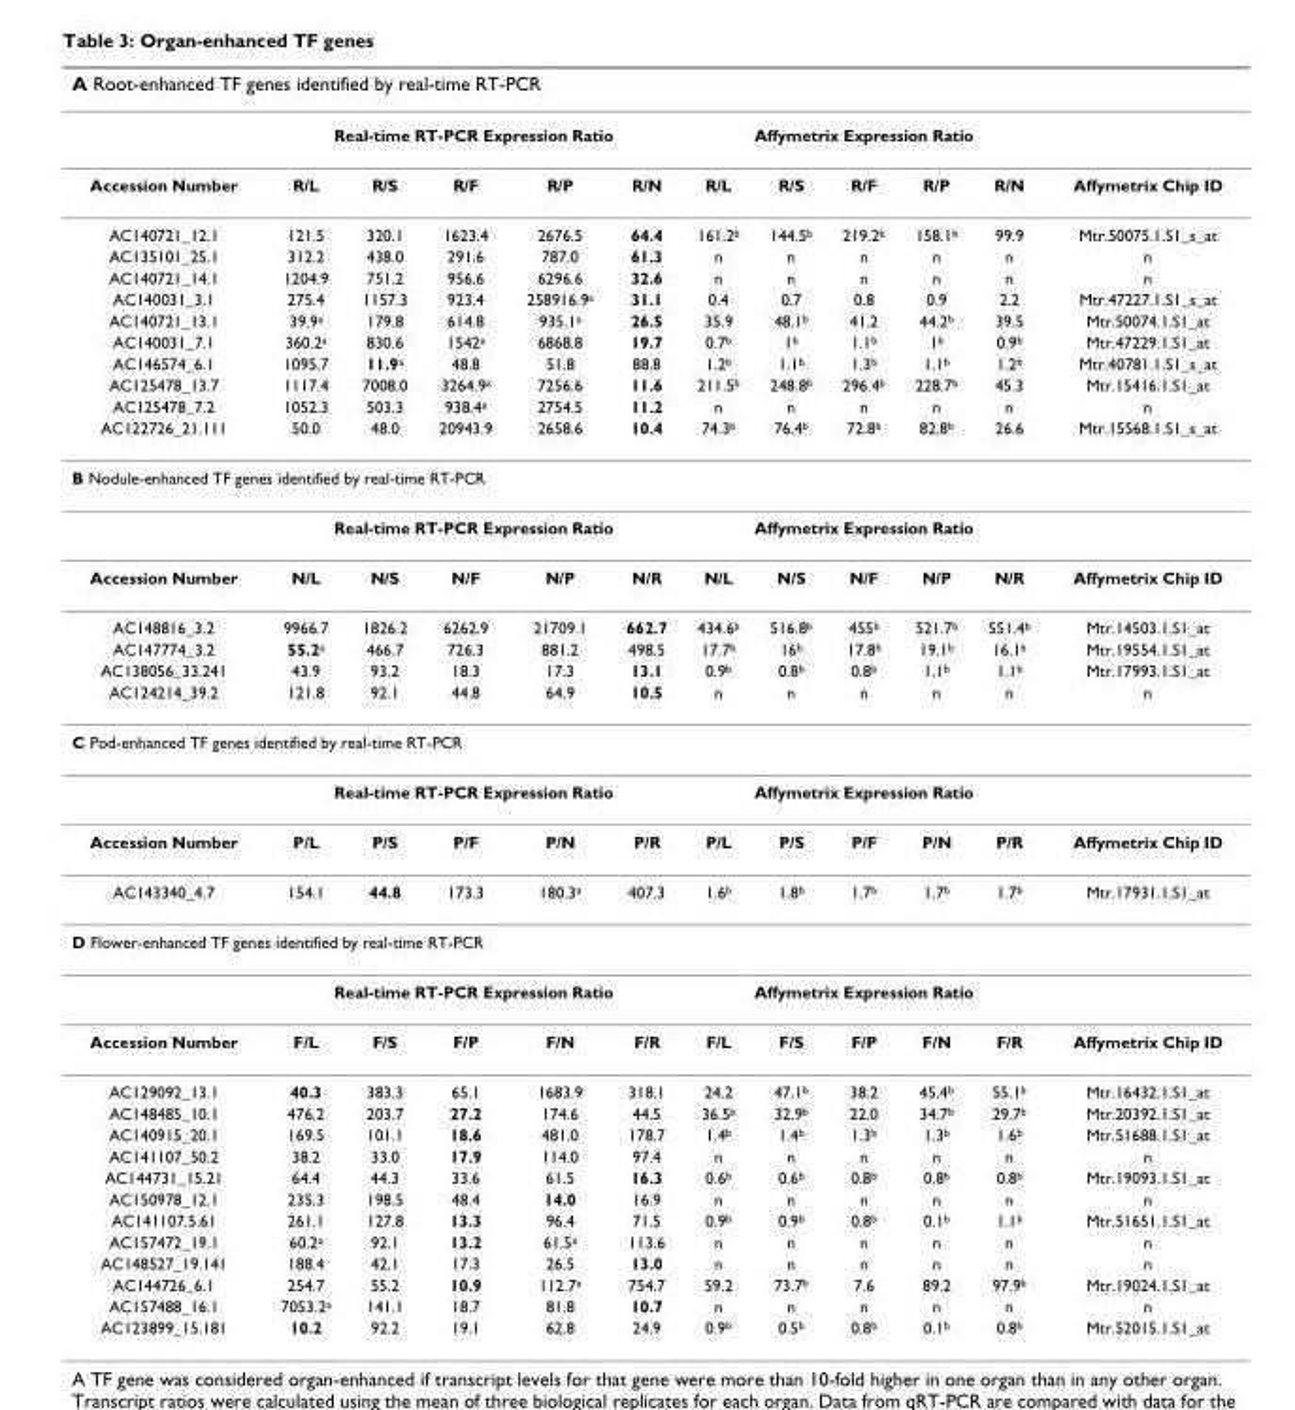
<table><thead><tr><td colspan="12">A Root-enhanced TF genes identified by real-time RT-PCR</td></tr><tr><td rowspan="2">Accession Number</td><td colspan="5">Real-time RT-PCR Expression Ratio</td><td colspan="5">Affymetrix Expression Ratio</td><td rowspan="2">Affymetrix Chip ID</td></tr><tr><td>R/L</td><td>R/S</td><td>R/F</td><td>R/P</td><td>R/N</td><td>R/L</td><td>R/S</td><td>R/F</td><td>R/P</td><td>R/N</td></tr></thead><tbody><tr><td>AC140721_12.1</td><td>121.5</td><td>320.1</td><td>1623.4</td><td>2676.5</td><td>64.4</td><td>161.2<sup>b</sup></td><td>144.5<sup>b</sup></td><td>219.2<sup>b</sup></td><td>158.1<sup>b</sup></td><td>99.9</td><td>Mtr.50075.1.S1_s_at</td></tr><tr><td>AC135101_25.1</td><td>312.2</td><td>438.0</td><td>291.6</td><td>787.0</td><td>61.3</td><td>n</td><td>n</td><td>n</td><td>n</td><td>n</td><td>n</td></tr><tr><td>AC140721_14.1</td><td>1204.9</td><td>751.2</td><td>956.6</td><td>6296.6</td><td>32.6</td><td>n</td><td>n</td><td>n</td><td>n</td><td>n</td><td>n</td></tr><tr><td>AC140031_3.1</td><td>275.4</td><td>1157.3</td><td>923.4</td><td>258916.9<sup>a</sup></td><td>31.1</td><td>0.4</td><td>0.7</td><td>0.8</td><td>0.9</td><td>2.2</td><td>Mtr.47227.1.S1_s_at</td></tr><tr><td>AC140721_13.1</td><td>39.9<sup>a</sup></td><td>179.8</td><td>614.8</td><td>935.1<sup>a</sup></td><td>26.5</td><td>35.9</td><td>48.1<sup>b</sup></td><td>41.2</td><td>44.2<sup>b</sup></td><td>39.5</td><td>Mtr.50074.1.S1_at</td></tr><tr><td>AC140031_7.1</td><td>360.2<sup>a</sup></td><td>830.6</td><td>1542<sup>a</sup></td><td>6868.8</td><td>19.7</td><td>0.7<sup>b</sup></td><td>1<sup>b</sup></td><td>1.1<sup>b</sup></td><td>1<sup>b</sup></td><td>0.9<sup>b</sup></td><td>Mtr.47229.1.S1_at</td></tr><tr><td>AC146574_6.1</td><td>1095.7</td><td>11.9<sup>a</sup></td><td>48.8</td><td>51.8</td><td>88.8</td><td>1.2<sup>b</sup></td><td>1.1<sup>b</sup></td><td>1.3<sup>b</sup></td><td>1.1<sup>b</sup></td><td>1.2<sup>b</sup></td><td>Mtr.40781.1.S1_s_at</td></tr><tr><td>AC125478_13.7</td><td>1117.4</td><td>7008.0</td><td>3264.9<sup>a</sup></td><td>7256.6</td><td>11.6</td><td>211.5<sup>b</sup></td><td>248.8<sup>b</sup></td><td>296.4<sup>b</sup></td><td>228.7<sup>b</sup></td><td>45.3</td><td>Mtr.15416.1.S1_at</td></tr><tr><td>AC125478_7.2</td><td>1052.3</td><td>503.3</td><td>938.4<sup>a</sup></td><td>2754.5</td><td>11.2</td><td>n</td><td>n</td><td>n</td><td>n</td><td>n</td><td>n</td></tr><tr><td>AC122726_21.111</td><td>50.0</td><td>48.0</td><td>20943.9</td><td>2658.6</td><td>10.4</td><td>74.3<sup>b</sup></td><td>76.4<sup>b</sup></td><td>72.8<sup>b</sup></td><td>82.8<sup>b</sup></td><td>26.6</td><td>Mtr.15568.1.S1_s_at</td></tr><tr><td colspan="12">B Nodule-enhanced TF genes identified by real-time RT-PCR</td></tr><tr><td></td><td colspan="5">Real-time RT-PCR Expression Ratio</td><td colspan="5">Affymetrix Expression Ratio</td><td></td></tr><tr><td>Accession Number</td><td>N/L</td><td>N/S</td><td>N/F</td><td>N/P</td><td>N/R</td><td>N/L</td><td>N/S</td><td>N/F</td><td>N/P</td><td>N/R</td><td>Affymetrix Chip ID</td></tr><tr><td>AC148816_3.2</td><td>9966.7</td><td>1826.2</td><td>6262.9</td><td>21709.1</td><td>662.7</td><td>434.6<sup>b</sup></td><td>516.8<sup>b</sup></td><td>455<sup>b</sup></td><td>521.7<sup>b</sup></td><td>551.4<sup>b</sup></td><td>Mtr.14503.1.S1_at</td></tr><tr><td>AC147774_3.2</td><td>55.2<sup>a</sup></td><td>466.7</td><td>726.3</td><td>881.2</td><td>498.5</td><td>17.7<sup>b</sup></td><td>16<sup>b</sup></td><td>17.8<sup>b</sup></td><td>19.1<sup>b</sup></td><td>16.1<sup>b</sup></td><td>Mtr.19554.1.S1_at</td></tr><tr><td>AC138056_33.241</td><td>43.9</td><td>93.2</td><td>18.3</td><td>17.3</td><td>13.1</td><td>0.9<sup>b</sup></td><td>0.8<sup>b</sup></td><td>0.8<sup>b</sup></td><td>1.1<sup>b</sup></td><td>1.1<sup>b</sup></td><td>Mtr.17993.1.S1_at</td></tr><tr><td>AC124214_39.2</td><td>121.8</td><td>92.1</td><td>44.8</td><td>64.9</td><td>10.5</td><td>n</td><td>n</td><td>n</td><td>n</td><td>n</td><td>n</td></tr><tr><td colspan="12">C Pod-enhanced TF genes identified by real-time RT-PCR</td></tr><tr><td></td><td colspan="5">Real-time RT-PCR Expression Ratio</td><td colspan="5">Affymetrix Expression Ratio</td><td></td></tr><tr><td>Accession Number</td><td>P/L</td><td>P/S</td><td>P/F</td><td>P/N</td><td>P/R</td><td>P/L</td><td>P/S</td><td>P/F</td><td>P/N</td><td>P/R</td><td>Affymetrix Chip ID</td></tr><tr><td>AC143340_4.7</td><td>154.1</td><td>44.8</td><td>173.3</td><td>180.3<sup>a</sup></td><td>407.3</td><td>1.6<sup>b</sup></td><td>1.8<sup>b</sup></td><td>1.7<sup>b</sup></td><td>1.7<sup>b</sup></td><td>1.7<sup>b</sup></td><td>Mtr.17931.1.S1_at</td></tr><tr><td colspan="12">D Flower-enhanced TF genes identified by real-time RT-PCR</td></tr><tr><td></td><td colspan="5">Real-time RT-PCR Expression Ratio</td><td colspan="5">Affymetrix Expression Ratio</td><td></td></tr><tr><td>Accession Number</td><td>F/L</td><td>F/S</td><td>F/P</td><td>F/N</td><td>F/R</td><td>F/L</td><td>F/S</td><td>F/P</td><td>F/N</td><td>F/R</td><td>Affymetrix Chip ID</td></tr><tr><td>AC129092_13.1</td><td>40.3</td><td>383.3</td><td>65.1</td><td>1683.9</td><td>318.1</td><td>24.2</td><td>47.1<sup>b</sup></td><td>38.2</td><td>45.4<sup>b</sup></td><td>55.1<sup>b</sup></td><td>Mtr.16432.1.S1_at</td></tr><tr><td>AC148485_10.1</td><td>476.2</td><td>203.7</td><td>27.2</td><td>174.6</td><td>44.5</td><td>36.5<sup>b</sup></td><td>32.9<sup>b</sup></td><td>22.0</td><td>34.7<sup>b</sup></td><td>29.7<sup>b</sup></td><td>Mtr.20392.1.S1_at</td></tr><tr><td>AC140915_20.1</td><td>169.5</td><td>101.1</td><td>18.6</td><td>481.0</td><td>178.7</td><td>1.4<sup>b</sup></td><td>1.4<sup>b</sup></td><td>1.3<sup>b</sup></td><td>1.3<sup>b</sup></td><td>1.6<sup>b</sup></td><td>Mtr.51688.1.S1_at</td></tr><tr><td>AC141107_50.2</td><td>38.2</td><td>33.0</td><td>17.9</td><td>114.0</td><td>97.4</td><td>n</td><td>n</td><td>n</td><td>n</td><td>n</td><td>n</td></tr><tr><td>AC144731_15.21</td><td>64.4</td><td>44.3</td><td>33.6</td><td>61.5</td><td>16.3</td><td>0.6<sup>b</sup></td><td>0.6<sup>b</sup></td><td>0.8<sup>b</sup></td><td>0.8<sup>b</sup></td><td>0.8<sup>b</sup></td><td>Mtr.19093.1.S1_at</td></tr><tr><td>AC150978_12.1</td><td>235.3</td><td>198.5</td><td>48.4</td><td>14.0</td><td>16.9</td><td>n</td><td>n</td><td>n</td><td>n</td><td>n</td><td>n</td></tr><tr><td>AC141107.5.61</td><td>261.1</td><td>127.8</td><td>13.3</td><td>96.4</td><td>71.5</td><td>0.9<sup>b</sup></td><td>0.9<sup>b</sup></td><td>0.8<sup>b</sup></td><td>0.1<sup>b</sup></td><td>1.1<sup>b</sup></td><td>Mtr.51651.1.S1_at</td></tr><tr><td>AC157472_19.1</td><td>60.2<sup>a</sup></td><td>92.1</td><td>13.2</td><td>61.5<sup>a</sup></td><td>113.6</td><td>n</td><td>n</td><td>n</td><td>n</td><td>n</td><td>n</td></tr><tr><td>AC148527_19.141</td><td>188.4</td><td>42.1</td><td>17.3</td><td>26.5</td><td>13.0</td><td>n</td><td>n</td><td>n</td><td>n</td><td>n</td><td>n</td></tr><tr><td>AC144726_6.1</td><td>254.7</td><td>55.2</td><td>10.9</td><td>112.7<sup>a</sup></td><td>754.7</td><td>59.2</td><td>73.7<sup>b</sup></td><td>7.6</td><td>89.2</td><td>97.9<sup>b</sup></td><td>Mtr.19024.1.S1_at</td></tr><tr><td>AC157488_16.1</td><td>7053.2<sup>a</sup></td><td>141.1</td><td>18.7</td><td>81.8</td><td>10.7</td><td>n</td><td>n</td><td>n</td><td>n</td><td>n</td><td>n</td></tr><tr><td>AC123899_15.181</td><td>10.2</td><td>92.2</td><td>19.1</td><td>62.8</td><td>24.9</td><td>0.9<sup>b</sup></td><td>0.5<sup>b</sup></td><td>0.8<sup>b</sup></td><td>0.1<sup>b</sup></td><td>0.8<sup>b</sup></td><td>Mtr.52015.1.S1_at</td></tr></tbody></table>